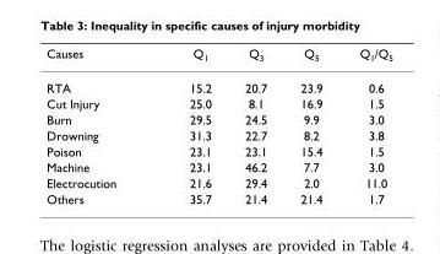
<table><thead><tr><td>Causes</td><td>Q<sub>1</sub></td><td>Q<sub>3</sub></td><td>Q<sub>5</sub></td><td>Q<sub>1</sub>/Q<sub>5</sub></td></tr></thead><tbody><tr><td>RTA</td><td>15.2</td><td>20.7</td><td>23.9</td><td>0.6</td></tr><tr><td>Cut Injury</td><td>25.0</td><td>8.1</td><td>16.9</td><td>1.5</td></tr><tr><td>Burn</td><td>29.5</td><td>24.5</td><td>9.9</td><td>3.0</td></tr><tr><td>Drowning</td><td>31.3</td><td>22.7</td><td>8.2</td><td>3.8</td></tr><tr><td>Poison</td><td>23.1</td><td>23.1</td><td>15.4</td><td>1.5</td></tr><tr><td>Machine</td><td>23.1</td><td>46.2</td><td>7.7</td><td>3.0</td></tr><tr><td>Electrocution</td><td>21.6</td><td>29.4</td><td>2.0</td><td>11.0</td></tr><tr><td>Others</td><td>35.7</td><td>21.4</td><td>21.4</td><td>1.7</td></tr></tbody></table>